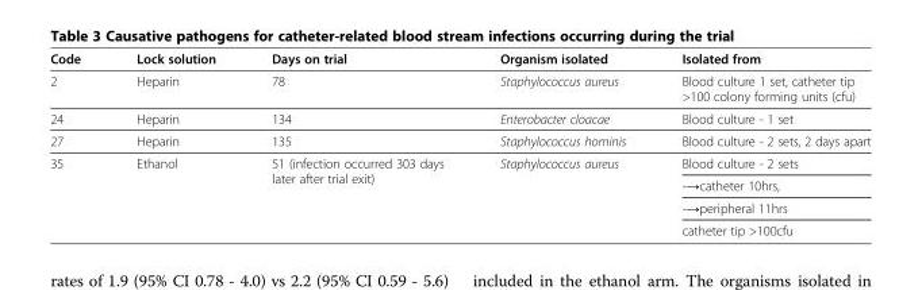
<table><thead><tr><td>Code</td><td>Lock solution</td><td>Days on trial</td><td>Organism isolated</td><td>Isolated from</td></tr></thead><tbody><tr><td>2</td><td>Heparin</td><td>78</td><td>Staphylococcus aureus</td><td>Blood culture 1 set, catheter tip &gt;100 colony forming units (cfu)</td></tr><tr><td>24</td><td>Heparin</td><td>134</td><td>Enterobacter cloacae</td><td>Blood culture - 1 set</td></tr><tr><td>27</td><td>Heparin</td><td>135</td><td>Staphylococcus hominis</td><td>Blood culture - 2 sets, 2 days apart</td></tr><tr><td rowspan="4">35</td><td rowspan="4">Ethanol</td><td rowspan="4">51 (infection occurred 303 days later after trial exit)</td><td rowspan="4">Staphylococcus aureus</td><td>Blood culture - 2 sets</td></tr><tr><td>-→catheter 10hrs,</td></tr><tr><td>-→peripheral 11hrs</td></tr><tr><td>catheter tip &gt;100cfu</td></tr></tbody></table>